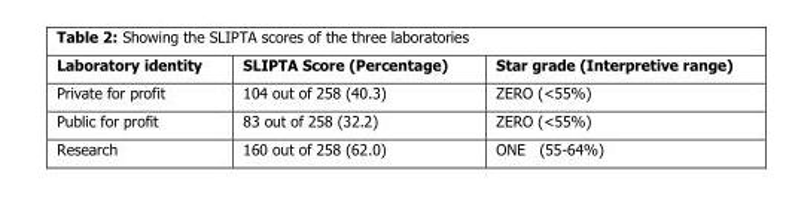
<table><thead><tr><td>Laboratory identity</td><td>SLIPTA Score (Percentage)</td><td>Star grade (Interpretive range)</td></tr></thead><tbody><tr><td>Private for profit</td><td>104 out of 258 (40.3)</td><td>ZERO (&lt;55%)</td></tr><tr><td>Public for profit</td><td>83 out of 258 (32.2)</td><td>ZERO (&lt;55%)</td></tr><tr><td>Research</td><td>160 out of 258 (62.0)</td><td>ONE (55-64%)</td></tr></tbody></table>